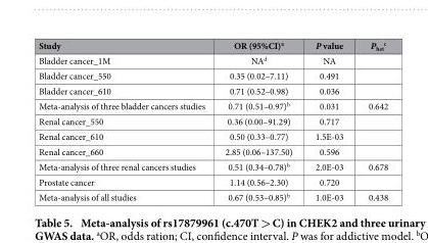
<table><thead><tr><td>Study</td><td>OR (95%CI)<sup>a</sup></td><td>P value</td><td>P<sub>het</sub> <sup>c</sup></td></tr></thead><tbody><tr><td>Bladder cancer_1M</td><td>NA<sup>d</sup></td><td>NA</td><td></td></tr><tr><td>Bladder cancer_550</td><td>0.35 (0.02–7.11)</td><td>0.491</td><td></td></tr><tr><td>Bladder cancer_610</td><td>0.71 (0.52–0.98)</td><td>0.036</td><td></td></tr><tr><td>Meta-analysis of three bladder cancers studies</td><td>0.71 (0.51–0.97)<sup>b</sup></td><td>0.031</td><td>0.642</td></tr><tr><td>Renal cancer_550</td><td>0.36 (0.00–91.29)</td><td>0.717</td><td></td></tr><tr><td>Renal cancer_610</td><td>0.50 (0.33–0.77)</td><td>1.5E-03</td><td></td></tr><tr><td>Renal cancer_660</td><td>2.85 (0.06–137.50)</td><td>0.596</td><td></td></tr><tr><td>Meta-analysis of three renal cancers studies</td><td>0.51 (0.34–0.78)<sup>b</sup></td><td>2.0E-03</td><td>0.678</td></tr><tr><td>Prostate cancer</td><td>1.14 (0.56–2.30)</td><td>0.720</td><td></td></tr><tr><td>Meta-analysis of all studies</td><td>0.67 (0.53–0.85)<sup>b</sup></td><td>1.0E-03</td><td>0.438</td></tr></tbody></table>